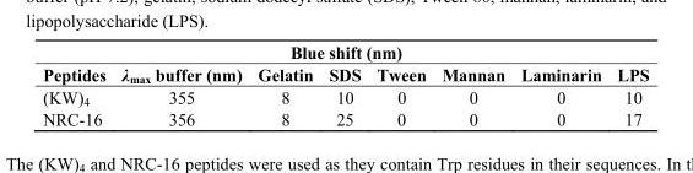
<table><thead><tr><td colspan="8">Blue shift (nm)</td></tr><tr><td>Peptides</td><td>λ<sub>max</sub> buffer (nm)</td><td>Gelatin</td><td>SDS</td><td>Tween</td><td>Mannan</td><td>Laminarin</td><td>LPS</td></tr></thead><tbody><tr><td>(KW)<sub>4</sub></td><td>355</td><td>8</td><td>10</td><td>0</td><td>0</td><td>0</td><td>10</td></tr><tr><td>NRC-16</td><td>356</td><td>8</td><td>25</td><td>0</td><td>0</td><td>0</td><td>17</td></tr></tbody></table>